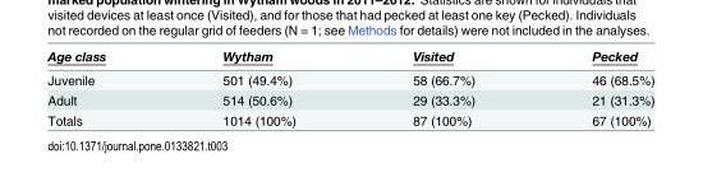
<table><thead><tr><td>Age class</td><td>Wytham</td><td>Visited</td><td>Pecked</td></tr></thead><tbody><tr><td>Juvenile</td><td>501 (49.4%)</td><td>58 (66.7%)</td><td>46 (68.5%)</td></tr><tr><td>Adult</td><td>514 (50.6%)</td><td>29 (33.3%)</td><td>21 (31.3%)</td></tr><tr><td>Totals</td><td>1014 (100%)</td><td>87 (100%)</td><td>67 (100%)</td></tr></tbody></table>